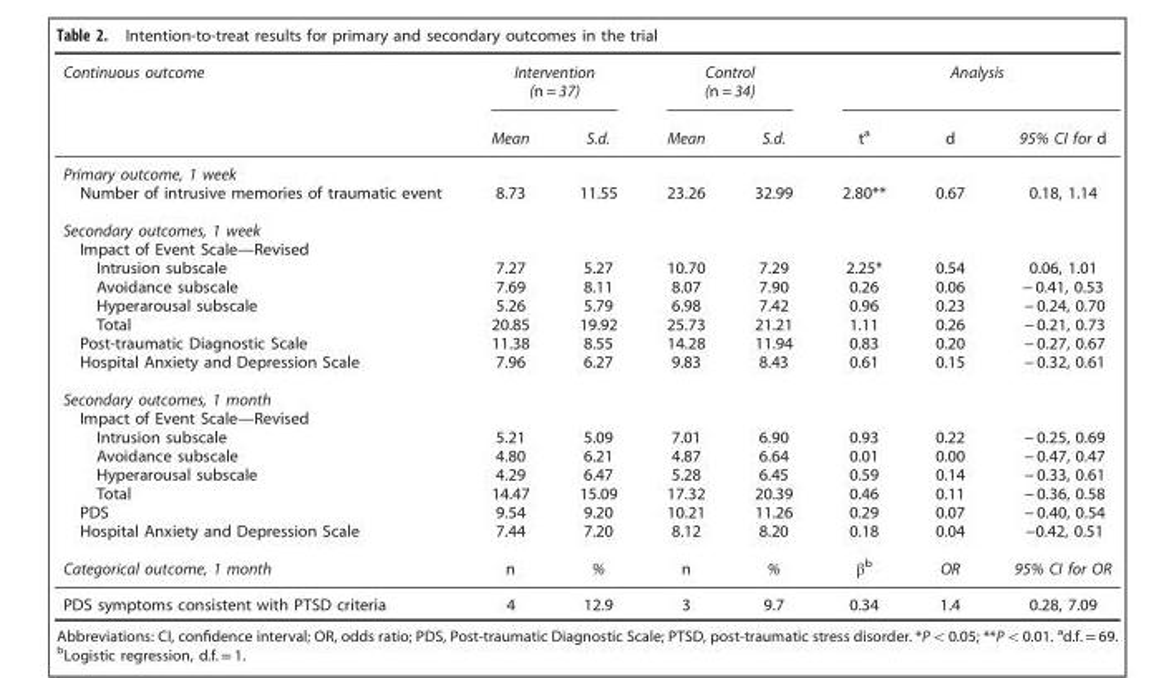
<table><thead><tr><td rowspan="2">Continuous outcome</td><td colspan="2">Intervention (n = 37)</td><td colspan="2">Control (n = 34)</td><td colspan="3">Analysis</td></tr><tr><td>Mean</td><td>S.d.</td><td>Mean</td><td>S.d.</td><td>t<sup>a</sup></td><td>d</td><td>95% CI for d</td></tr></thead><tbody><tr><td colspan="8">Primary outcome, 1 week</td></tr><tr><td>Number of intrusive memories of traumatic event</td><td>8.73</td><td>11.55</td><td>23.26</td><td>32.99</td><td>2.80**</td><td>0.67</td><td>0.18, 1.14</td></tr><tr><td colspan="8">Secondary outcomes, 1 week</td></tr><tr><td colspan="8">Impact of Event Scale—Revised</td></tr><tr><td>Intrusion subscale</td><td>7.27</td><td>5.27</td><td>10.70</td><td>7.29</td><td>2.25*</td><td>0.54</td><td>0.06, 1.01</td></tr><tr><td>Avoidance subscale</td><td>7.69</td><td>8.11</td><td>8.07</td><td>7.90</td><td>0.26</td><td>0.06</td><td>− 0.41, 0.53</td></tr><tr><td>Hyperarousal subscale</td><td>5.26</td><td>5.79</td><td>6.98</td><td>7.42</td><td>0.96</td><td>0.23</td><td>− 0.24, 0.70</td></tr><tr><td>Total</td><td>20.85</td><td>19.92</td><td>25.73</td><td>21.21</td><td>1.11</td><td>0.26</td><td>− 0.21, 0.73</td></tr><tr><td>Post-traumatic Diagnostic Scale</td><td>11.38</td><td>8.55</td><td>14.28</td><td>11.94</td><td>0.83</td><td>0.20</td><td>− 0.27, 0.67</td></tr><tr><td>Hospital Anxiety and Depression Scale</td><td>7.96</td><td>6.27</td><td>9.83</td><td>8.43</td><td>0.61</td><td>0.15</td><td>− 0.32, 0.61</td></tr><tr><td colspan="8">Secondary outcomes, 1 month</td></tr><tr><td colspan="8">Impact of Event Scale—Revised</td></tr><tr><td>Intrusion subscale</td><td>5.21</td><td>5.09</td><td>7.01</td><td>6.90</td><td>0.93</td><td>0.22</td><td>− 0.25, 0.69</td></tr><tr><td>Avoidance subscale</td><td>4.80</td><td>6.21</td><td>4.87</td><td>6.64</td><td>0.01</td><td>0.00</td><td>− 0.47, 0.47</td></tr><tr><td>Hyperarousal subscale</td><td>4.29</td><td>6.47</td><td>5.28</td><td>6.45</td><td>0.59</td><td>0.14</td><td>− 0.33, 0.61</td></tr><tr><td>Total</td><td>14.47</td><td>15.09</td><td>17.32</td><td>20.39</td><td>0.46</td><td>0.11</td><td>− 0.36, 0.58</td></tr><tr><td>PDS</td><td>9.54</td><td>9.20</td><td>10.21</td><td>11.26</td><td>0.29</td><td>0.07</td><td>− 0.40, 0.54</td></tr><tr><td>Hospital Anxiety and Depression Scale</td><td>7.44</td><td>7.20</td><td>8.12</td><td>8.20</td><td>0.18</td><td>0.04</td><td>−0.42, 0.51</td></tr><tr><td>Categorical outcome, 1 month</td><td>n</td><td>%</td><td>n</td><td>%</td><td>β<sup>b</sup></td><td>OR</td><td>95% CI for OR</td></tr><tr><td>PDS symptoms consistent with PTSD criteria</td><td>4</td><td>12.9</td><td>3</td><td>9.7</td><td>0.34</td><td>1.4</td><td>0.28, 7.09</td></tr></tbody></table>